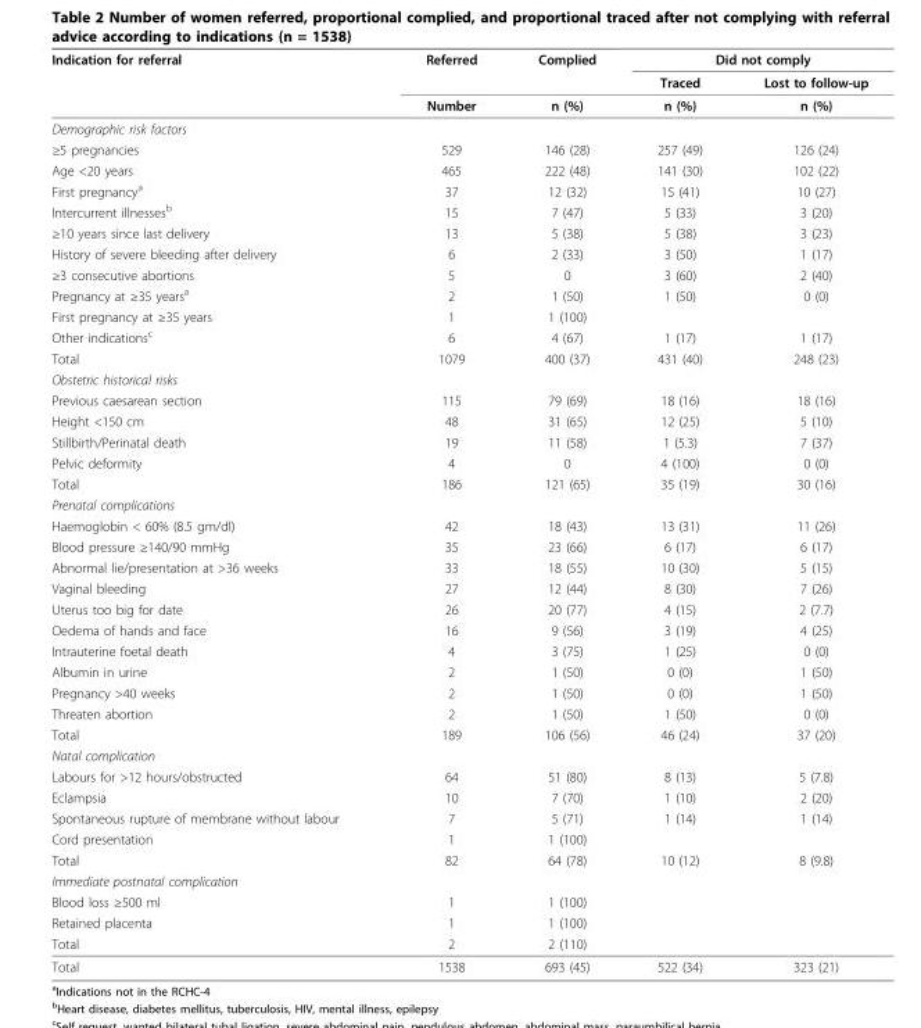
<table><thead><tr><td rowspan="3">Indication for referral</td><td rowspan="3">Referred Number</td><td rowspan="3">Complied n (%)</td><td colspan="2">Did not comply</td></tr><tr><td rowspan="2">Traced n (%)</td><td rowspan="2">Lost to follow-up n (%)</td></tr><tr></tr></thead><tbody><tr><td colspan="5">Demographic risk factors</td></tr><tr><td>≥5 pregnancies</td><td>529</td><td>146 (28)</td><td>257 (49)</td><td>126 (24)</td></tr><tr><td>Age &lt;20 years</td><td>465</td><td>222 (48)</td><td>141 (30)</td><td>102 (22)</td></tr><tr><td>First pregnancy<sup>a</sup></td><td>37</td><td>12 (32)</td><td>15 (41)</td><td>10 (27)</td></tr><tr><td>Intercurrent illnesses<sup>b</sup></td><td>15</td><td>7 (47)</td><td>5 (33)</td><td>3 (20)</td></tr><tr><td>≥10 years since last delivery</td><td>13</td><td>5 (38)</td><td>5 (38)</td><td>3 (23)</td></tr><tr><td>History of severe bleeding after delivery</td><td>6</td><td>2 (33)</td><td>3 (50)</td><td>1 (17)</td></tr><tr><td>≥3 consecutive abortions</td><td>5</td><td>0</td><td>3 (60)</td><td>2 (40)</td></tr><tr><td>Pregnancy at ≥35 years<sup>a</sup></td><td>2</td><td>1 (50)</td><td>1 (50)</td><td>0 (0)</td></tr><tr><td>First pregnancy at ≥35 years</td><td>1</td><td>1 (100)</td><td></td><td></td></tr><tr><td>Other indications<sup>c</sup></td><td>6</td><td>4 (67)</td><td>1 (17)</td><td>1 (17)</td></tr><tr><td>Total</td><td>1079</td><td>400 (37)</td><td>431 (40)</td><td>248 (23)</td></tr><tr><td colspan="5">Obstetric historical risks</td></tr><tr><td>Previous caesarean section</td><td>115</td><td>79 (69)</td><td>18 (16)</td><td>18 (16)</td></tr><tr><td>Height &lt;150 cm</td><td>48</td><td>31 (65)</td><td>12 (25)</td><td>5 (10)</td></tr><tr><td>Stillbirth/Perinatal death</td><td>19</td><td>11 (58)</td><td>1 (5.3)</td><td>7 (37)</td></tr><tr><td>Pelvic deformity</td><td>4</td><td>0</td><td>4 (100)</td><td>0 (0)</td></tr><tr><td>Total</td><td>186</td><td>121 (65)</td><td>35 (19)</td><td>30 (16)</td></tr><tr><td colspan="5">Prenatal complications</td></tr><tr><td>Haemoglobin &lt; 60% (8.5 gm/dl)</td><td>42</td><td>18 (43)</td><td>13 (31)</td><td>11 (26)</td></tr><tr><td>Blood pressure ≥140/90 mmHg</td><td>35</td><td>23 (66)</td><td>6 (17)</td><td>6 (17)</td></tr><tr><td>Abnormal lie/presentation at &gt;36 weeks</td><td>33</td><td>18 (55)</td><td>10 (30)</td><td>5 (15)</td></tr><tr><td>Vaginal bleeding</td><td>27</td><td>12 (44)</td><td>8 (30)</td><td>7 (26)</td></tr><tr><td>Uterus too big for date</td><td>26</td><td>20 (77)</td><td>4 (15)</td><td>2 (7.7)</td></tr><tr><td>Oedema of hands and face</td><td>16</td><td>9 (56)</td><td>3 (19)</td><td>4 (25)</td></tr><tr><td>Intrauterine foetal death</td><td>4</td><td>3 (75)</td><td>1 (25)</td><td>0 (0)</td></tr><tr><td>Albumin in urine</td><td>2</td><td>1 (50)</td><td>0 (0)</td><td>1 (50)</td></tr><tr><td>Pregnancy &gt;40 weeks</td><td>2</td><td>1 (50)</td><td>0 (0)</td><td>1 (50)</td></tr><tr><td>Threaten abortion</td><td>2</td><td>1 (50)</td><td>1 (50)</td><td>0 (0)</td></tr><tr><td>Total</td><td>189</td><td>106 (56)</td><td>46 (24)</td><td>37 (20)</td></tr><tr><td colspan="5">Natal complication</td></tr><tr><td>Labours for &gt;12 hours/obstructed</td><td>64</td><td>51 (80)</td><td>8 (13)</td><td>5 (7.8)</td></tr><tr><td>Eclampsia</td><td>10</td><td>7 (70)</td><td>1 (10)</td><td>2 (20)</td></tr><tr><td>Spontaneous rupture of membrane without labour</td><td>7</td><td>5 (71)</td><td>1 (14)</td><td>1 (14)</td></tr><tr><td>Cord presentation</td><td>1</td><td>1 (100)</td><td></td><td></td></tr><tr><td>Total</td><td>82</td><td>64 (78)</td><td>10 (12)</td><td>8 (9.8)</td></tr><tr><td colspan="5">Immediate postnatal complication</td></tr><tr><td>Blood loss ≥500 ml</td><td>1</td><td>1 (100)</td><td></td><td></td></tr><tr><td>Retained placenta</td><td>1</td><td>1 (100)</td><td></td><td></td></tr><tr><td>Total</td><td>2</td><td>2 (110)</td><td></td><td></td></tr><tr><td>Total</td><td>1538</td><td>693 (45)</td><td>522 (34)</td><td>323 (21)</td></tr></tbody></table>